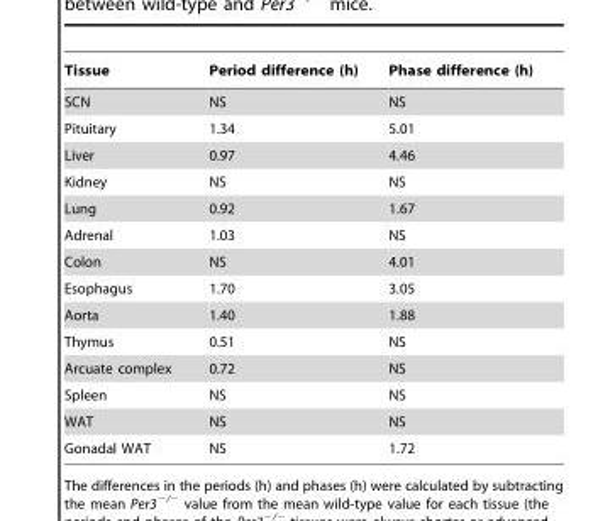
<table><thead><tr><td>Tissue</td><td>Period difference (h)</td><td>Phase difference (h)</td></tr></thead><tbody><tr><td>SCN</td><td>NS</td><td>NS</td></tr><tr><td>Pituitary</td><td>1.34</td><td>5.01</td></tr><tr><td>Liver</td><td>0.97</td><td>4.46</td></tr><tr><td>Kidney</td><td>NS</td><td>NS</td></tr><tr><td>Lung</td><td>0.92</td><td>1.67</td></tr><tr><td>Adrenal</td><td>1.03</td><td>NS</td></tr><tr><td>Colon</td><td>NS</td><td>4.01</td></tr><tr><td>Esophagus</td><td>1.70</td><td>3.05</td></tr><tr><td>Aorta</td><td>1.40</td><td>1.88</td></tr><tr><td>Thymus</td><td>0.51</td><td>NS</td></tr><tr><td>Arcuate complex</td><td>0.72</td><td>NS</td></tr><tr><td>Spleen</td><td>NS</td><td>NS</td></tr><tr><td>WAT</td><td>NS</td><td>NS</td></tr><tr><td>Gonadal WAT</td><td>NS</td><td>1.72</td></tr></tbody></table>